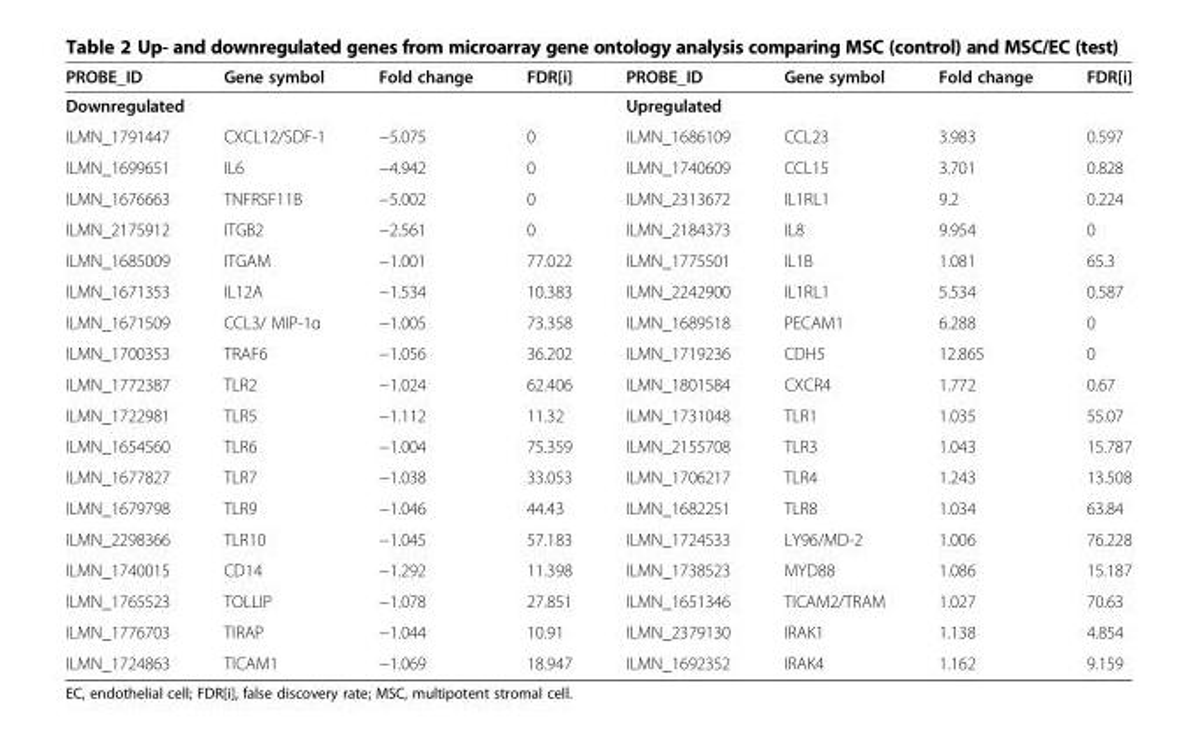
<table><thead><tr><td>PROBE_ID</td><td>Gene symbol</td><td>Fold change</td><td>FDR[i]</td><td>PROBE_ID</td><td>Gene symbol</td><td>Fold change</td><td>FDR[i]</td></tr></thead><tbody><tr><td colspan="4">Downregulated</td><td colspan="4">Upregulated</td></tr><tr><td>ILMN_1791447</td><td>CXCL12/SDF-1</td><td>−5.075</td><td>0</td><td>ILMN_1686109</td><td>CCL23</td><td>3.983</td><td>0.597</td></tr><tr><td>ILMN_1699651</td><td>IL6</td><td>−4.942</td><td>0</td><td>ILMN_1740609</td><td>CCL15</td><td>3.701</td><td>0.828</td></tr><tr><td>ILMN_1676663</td><td>TNFRSF11B</td><td>−5.002</td><td>0</td><td>ILMN_2313672</td><td>IL1RL1</td><td>9.2</td><td>0.224</td></tr><tr><td>ILMN_2175912</td><td>ITGB2</td><td>−2.561</td><td>0</td><td>ILMN_2184373</td><td>IL8</td><td>9.954</td><td>0</td></tr><tr><td>ILMN_1685009</td><td>ITGAM</td><td>−1.001</td><td>77.022</td><td>ILMN_1775501</td><td>IL1B</td><td>1.081</td><td>65.3</td></tr><tr><td>ILMN_1671353</td><td>IL12A</td><td>−1.534</td><td>10.383</td><td>ILMN_2242900</td><td>IL1RL1</td><td>5.534</td><td>0.587</td></tr><tr><td>ILMN_1671509</td><td>CCL3/ MIP-1α</td><td>−1.005</td><td>73.358</td><td>ILMN_1689518</td><td>PECAM1</td><td>6.288</td><td>0</td></tr><tr><td>ILMN_1700353</td><td>TRAF6</td><td>−1.056</td><td>36.202</td><td>ILMN_1719236</td><td>CDH5</td><td>12.865</td><td>0</td></tr><tr><td>ILMN_1772387</td><td>TLR2</td><td>−1.024</td><td>62.406</td><td>ILMN_1801584</td><td>CXCR4</td><td>1.772</td><td>0.67</td></tr><tr><td>ILMN_1722981</td><td>TLR5</td><td>−1.112</td><td>11.32</td><td>ILMN_1731048</td><td>TLR1</td><td>1.035</td><td>55.07</td></tr><tr><td>ILMN_1654560</td><td>TLR6</td><td>−1.004</td><td>75.359</td><td>ILMN_2155708</td><td>TLR3</td><td>1.043</td><td>15.787</td></tr><tr><td>ILMN_1677827</td><td>TLR7</td><td>−1.038</td><td>33.053</td><td>ILMN_1706217</td><td>TLR4</td><td>1.243</td><td>13.508</td></tr><tr><td>ILMN_1679798</td><td>TLR9</td><td>−1.046</td><td>44.43</td><td>ILMN_1682251</td><td>TLR8</td><td>1.034</td><td>63.84</td></tr><tr><td>ILMN_2298366</td><td>TLR10</td><td>−1.045</td><td>57.183</td><td>ILMN_1724533</td><td>LY96/MD-2</td><td>1.006</td><td>76.228</td></tr><tr><td>ILMN_1740015</td><td>CD14</td><td>−1.292</td><td>11.398</td><td>ILMN_1738523</td><td>MYD88</td><td>1.086</td><td>15.187</td></tr><tr><td>ILMN_1765523</td><td>TOLLIP</td><td>−1.078</td><td>27.851</td><td>ILMN_1651346</td><td>TICAM2/TRAM</td><td>1.027</td><td>70.63</td></tr><tr><td>ILMN_1776703</td><td>TIRAP</td><td>−1.044</td><td>10.91</td><td>ILMN_2379130</td><td>IRAK1</td><td>1.138</td><td>4.854</td></tr><tr><td>ILMN_1724863</td><td>TICAM1</td><td>−1.069</td><td>18.947</td><td>ILMN_1692352</td><td>IRAK4</td><td>1.162</td><td>9.159</td></tr></tbody></table>